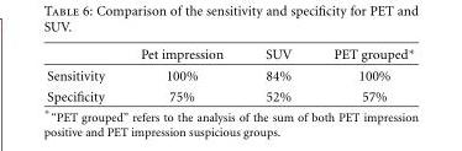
<table><thead><tr><td></td><td>Pet impression</td><td>SUV</td><td>PET grouped∗</td></tr></thead><tbody><tr><td>Sensitivity</td><td>100%</td><td>84%</td><td>100%</td></tr><tr><td>Specificity</td><td>75%</td><td>52%</td><td>57%</td></tr></tbody></table>